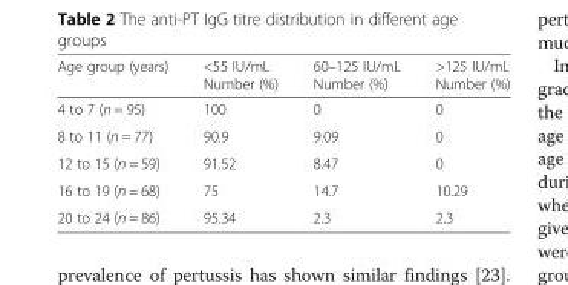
<table><thead><tr><td>Age group (years)</td><td>&lt;55 IU/mL Number (%)</td><td>60–125 IU/mL Number (%)</td><td>&gt;125 IU/mL Number (%)</td></tr></thead><tbody><tr><td>4 to 7 (n = 95)</td><td>100</td><td>0</td><td>0</td></tr><tr><td>8 to 11 (n = 77)</td><td>90.9</td><td>9.09</td><td>0</td></tr><tr><td>12 to 15 (n = 59)</td><td>91.52</td><td>8.47</td><td>0</td></tr><tr><td>16 to 19 (n = 68)</td><td>75</td><td>14.7</td><td>10.29</td></tr><tr><td>20 to 24 (n = 86)</td><td>95.34</td><td>2.3</td><td>2.3</td></tr></tbody></table>